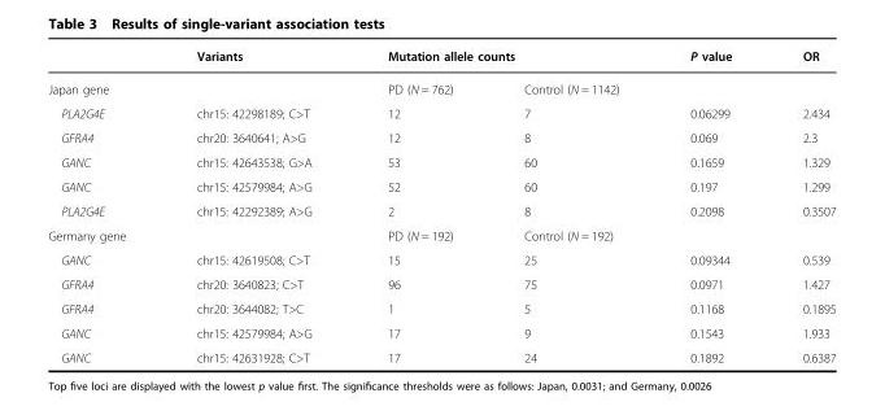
<table><thead><tr><td rowspan="2">Japan gene</td><td rowspan="2">Variants</td><td colspan="2">Mutation allele counts</td><td rowspan="2">P value</td><td rowspan="2">OR</td></tr><tr><td>PD (N = 762)</td><td>Control (N = 1142)</td></tr></thead><tbody><tr><td>PLA2G4E</td><td>chr15: 42298189; C&gt;T</td><td>12</td><td>7</td><td>0.06299</td><td>2.434</td></tr><tr><td>GFRA4</td><td>chr20: 3640641; A&gt;G</td><td>12</td><td>8</td><td>0.069</td><td>2.3</td></tr><tr><td>GANC</td><td>chr15: 42643538; G&gt;A</td><td>53</td><td>60</td><td>0.1659</td><td>1.329</td></tr><tr><td>GANC</td><td>chr15: 42579984; A&gt;G</td><td>52</td><td>60</td><td>0.197</td><td>1.299</td></tr><tr><td>PLA2G4E</td><td>chr15: 42292389; A&gt;G</td><td>2</td><td>8</td><td>0.2098</td><td>0.3507</td></tr><tr><td>Germany gene</td><td></td><td>PD (N = 192)</td><td>Control (N = 192)</td><td></td><td></td></tr><tr><td>GANC</td><td>chr15: 42619508; C&gt;T</td><td>15</td><td>25</td><td>0.09344</td><td>0.539</td></tr><tr><td>GFRA4</td><td>chr20: 3640823; C&gt;T</td><td>96</td><td>75</td><td>0.0971</td><td>1.427</td></tr><tr><td>GFRA4</td><td>chr20: 3644082; T&gt;C</td><td>1</td><td>5</td><td>0.1168</td><td>0.1895</td></tr><tr><td>GANC</td><td>chr15: 42579984; A&gt;G</td><td>17</td><td>9</td><td>0.1543</td><td>1.933</td></tr><tr><td>GANC</td><td>chr15: 42631928; C&gt;T</td><td>17</td><td>24</td><td>0.1892</td><td>0.6387</td></tr></tbody></table>